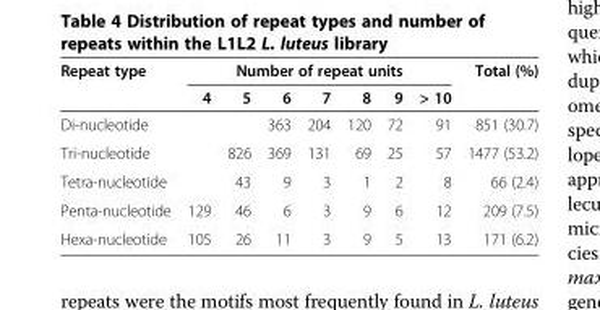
<table><thead><tr><td rowspan="2">Repeat type</td><td colspan="7">Number of repeat units</td><td rowspan="2">Total (%)</td></tr><tr><td>4</td><td>5</td><td>6</td><td>7</td><td>8</td><td>9</td><td>&gt; 10</td></tr></thead><tbody><tr><td>Di-nucleotide</td><td></td><td></td><td>363</td><td>204</td><td>120</td><td>72</td><td>91</td><td>851 (30.7)</td></tr><tr><td>Tri-nucleotide</td><td></td><td>826</td><td>369</td><td>131</td><td>69</td><td>25</td><td>57</td><td>1477 (53.2)</td></tr><tr><td>Tetra-nucleotide</td><td></td><td>43</td><td>9</td><td>3</td><td>1</td><td>2</td><td>8</td><td>66 (2.4)</td></tr><tr><td>Penta-nucleotide</td><td>129</td><td>46</td><td>6</td><td>3</td><td>9</td><td>6</td><td>12</td><td>209 (7.5)</td></tr><tr><td>Hexa-nucleotide</td><td>105</td><td>26</td><td>11</td><td>3</td><td>9</td><td>5</td><td>13</td><td>171 (6.2)</td></tr></tbody></table>